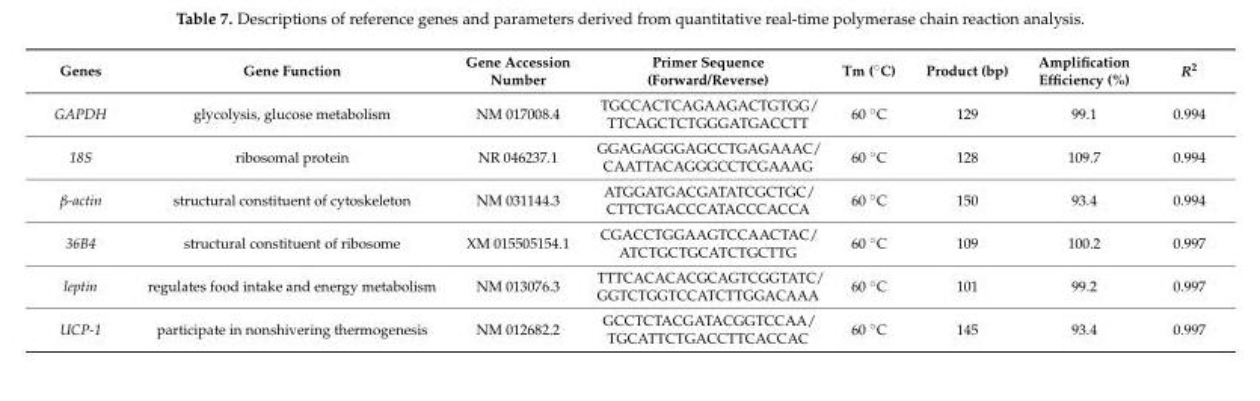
<table><thead><tr><td>Genes</td><td>Gene Function</td><td>Gene Accession Number</td><td>Primer Sequence (Forward/Reverse)</td><td>Tm (˝C)</td><td>Product (bp)</td><td>Amplification Efficiency (%)</td><td>R<sup>2</sup></td></tr></thead><tbody><tr><td>GAPDH</td><td>glycolysis, glucose metabolism</td><td>NM 017008.4</td><td>TGCCACTCAGAAGACTGTGG/ TTCAGCTCTGGGATGACCTT</td><td>60 ˝C</td><td>129</td><td>99.1</td><td>0.994</td></tr><tr><td>18S</td><td>ribosomal protein</td><td>NR 046237.1</td><td>GGAGAGGGAGCCTGAGAAAC/ CAATTACAGGGCCTCGAAAG</td><td>60 ˝C</td><td>128</td><td>109.7</td><td>0.994</td></tr><tr><td>β-actin</td><td>structural constituent of cytoskeleton</td><td>NM 031144.3</td><td>ATGGATGACGATATCGCTGC/ CTTCTGACCCATACCCACCA</td><td>60 ˝C</td><td>150</td><td>93.4</td><td>0.994</td></tr><tr><td>36B4</td><td>structural constituent of ribosome</td><td>XM 015505154.1</td><td>CGACCTGGAAGTCCAACTAC/ ATCTGCTGCATCTGCTTG</td><td>60 ˝C</td><td>109</td><td>100.2</td><td>0.997</td></tr><tr><td>leptin</td><td>regulates food intake and energy metabolism</td><td>NM 013076.3</td><td>TTTCACACACGCAGTCGGTATC/ GGTCTGGTCCATCTTGGACAAA</td><td>60 ˝C</td><td>101</td><td>99.2</td><td>0.997</td></tr><tr><td>UCP-1</td><td>participate in nonshivering thermogenesis</td><td>NM 012682.2</td><td>GCCTCTACGATACGGTCCAA/ TGCATTCTGACCTTCACCAC</td><td>60 ˝C</td><td>145</td><td>93.4</td><td>0.997</td></tr></tbody></table>